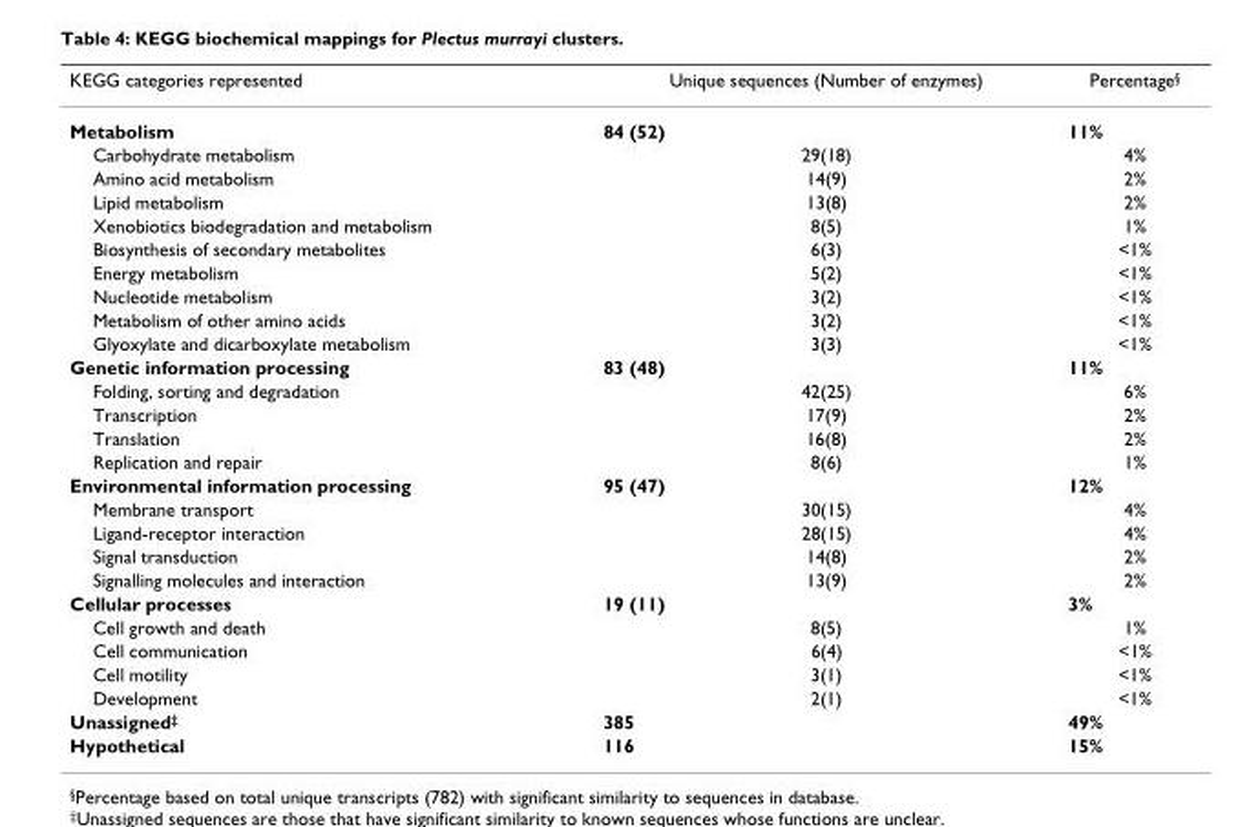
<table><thead><tr><td>KEGG categories represented</td><td>Unique sequences (Number of enzymes)</td><td>Percentage<sup>§</sup></td></tr></thead><tbody><tr><td>Metabolism</td><td>84 (52)</td><td>11%</td></tr><tr><td>Carbohydrate metabolism</td><td>29(18)</td><td>4%</td></tr><tr><td>Amino acid metabolism</td><td>14(9)</td><td>2%</td></tr><tr><td>Lipid metabolism</td><td>13(8)</td><td>2%</td></tr><tr><td>Xenobiotics biodegradation and metabolism</td><td>8(5)</td><td>1%</td></tr><tr><td>Biosynthesis of secondary metabolites</td><td>6(3)</td><td>&lt;1%</td></tr><tr><td>Energy metabolism</td><td>5(2)</td><td>&lt;1%</td></tr><tr><td>Nucleotide metabolism</td><td>3(2)</td><td>&lt;1%</td></tr><tr><td>Metabolism of other amino acids</td><td>3(2)</td><td>&lt;1%</td></tr><tr><td>Glyoxylate and dicarboxylate metabolism</td><td>3(3)</td><td>&lt;1%</td></tr><tr><td>Genetic information processing</td><td>83 (48)</td><td>11%</td></tr><tr><td>Folding, sorting and degradation</td><td>42(25)</td><td>6%</td></tr><tr><td>Transcription</td><td>17(9)</td><td>2%</td></tr><tr><td>Translation</td><td>16(8)</td><td>2%</td></tr><tr><td>Replication and repair</td><td>8(6)</td><td>1%</td></tr><tr><td>Environmental information processing</td><td>95 (47)</td><td>12%</td></tr><tr><td>Membrane transport</td><td>30(15)</td><td>4%</td></tr><tr><td>Ligand-receptor interaction</td><td>28(15)</td><td>4%</td></tr><tr><td>Signal transduction</td><td>14(8)</td><td>2%</td></tr><tr><td>Signalling molecules and interaction</td><td>13(9)</td><td>2%</td></tr><tr><td>Cellular processes</td><td>19 (11)</td><td>3%</td></tr><tr><td>Cell growth and death</td><td>8(5)</td><td>1%</td></tr><tr><td>Cell communication</td><td>6(4)</td><td>&lt;1%</td></tr><tr><td>Cell motility</td><td>3(1)</td><td>&lt;1%</td></tr><tr><td>Development</td><td>2(1)</td><td>&lt;1%</td></tr><tr><td>Unassigned<sup>‡</sup></td><td>385</td><td>49%</td></tr><tr><td>Hypothetical</td><td>116</td><td>15%</td></tr></tbody></table>